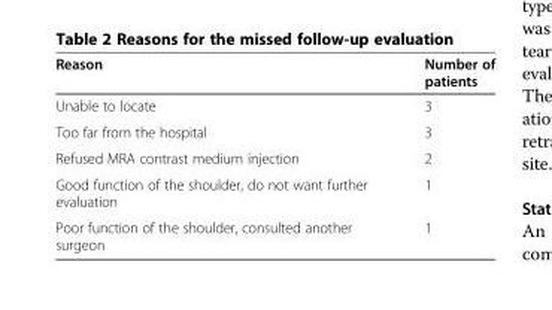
<table><thead><tr><td>Reason</td><td>Number of patients</td></tr></thead><tbody><tr><td>Unable to locate</td><td>3</td></tr><tr><td>Too far from the hospital</td><td>3</td></tr><tr><td>Refused MRA contrast medium injection</td><td>2</td></tr><tr><td>Good function of the shoulder, do not want further evaluation</td><td>1</td></tr><tr><td>Poor function of the shoulder, consulted another surgeon</td><td>1</td></tr></tbody></table>